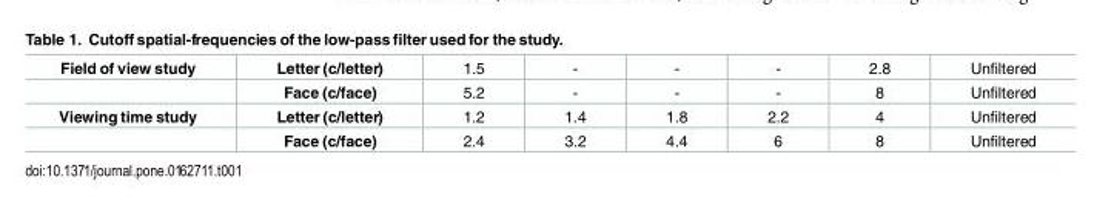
<table><tbody><tr><td rowspan="2">Field of view study</td><td>Letter (c/letter)</td><td>1.5</td><td>-</td><td>-</td><td>-</td><td>2.8</td><td>Unfiltered</td></tr><tr><td>Face (c/face)</td><td>5.2</td><td>-</td><td>-</td><td>-</td><td>8</td><td>Unfiltered</td></tr><tr><td rowspan="2">Viewing time study</td><td>Letter (c/letter)</td><td>1.2</td><td>1.4</td><td>1.8</td><td>2.2</td><td>4</td><td>Unfiltered</td></tr><tr><td>Face (c/face)</td><td>2.4</td><td>3.2</td><td>4.4</td><td>6</td><td>8</td><td>Unfiltered</td></tr></tbody></table>